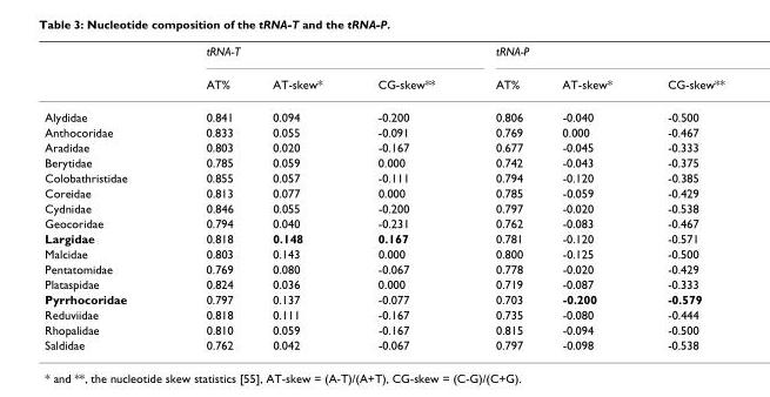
<table><thead><tr><td rowspan="2"></td><td colspan="3">tRNA-T</td><td colspan="3">tRNA-P</td></tr><tr><td>AT%</td><td>AT-skew*</td><td>CG-skew**</td><td>AT%</td><td>AT-skew*</td><td>CG-skew**</td></tr></thead><tbody><tr><td>Alydidae</td><td>0.841</td><td>0.094</td><td>-0.200</td><td>0.806</td><td>-0.040</td><td>-0.500</td></tr><tr><td>Anthocoridae</td><td>0.833</td><td>0.055</td><td>-0.091</td><td>0.769</td><td>0.000</td><td>-0.467</td></tr><tr><td>Aradidae</td><td>0.803</td><td>0.020</td><td>-0.167</td><td>0.677</td><td>-0.045</td><td>-0.333</td></tr><tr><td>Berytidae</td><td>0.785</td><td>0.059</td><td>0.000</td><td>0.742</td><td>-0.043</td><td>-0.375</td></tr><tr><td>Colobathristidae</td><td>0.855</td><td>0.057</td><td>-0.111</td><td>0.794</td><td>-0.120</td><td>-0.385</td></tr><tr><td>Coreidae</td><td>0.813</td><td>0.077</td><td>0.000</td><td>0.785</td><td>-0.059</td><td>-0.429</td></tr><tr><td>Cydnidae</td><td>0.846</td><td>0.055</td><td>-0.200</td><td>0.797</td><td>-0.020</td><td>-0.538</td></tr><tr><td>Geocoridae</td><td>0.794</td><td>0.040</td><td>-0.231</td><td>0.762</td><td>-0.083</td><td>-0.467</td></tr><tr><td>Largidae</td><td>0.818</td><td>0.148</td><td>0.167</td><td>0.781</td><td>-0.120</td><td>-0.571</td></tr><tr><td>Malcidae</td><td>0.803</td><td>0.143</td><td>0.000</td><td>0.800</td><td>-0.125</td><td>-0.500</td></tr><tr><td>Pentatomidae</td><td>0.769</td><td>0.080</td><td>-0.067</td><td>0.778</td><td>-0.020</td><td>-0.429</td></tr><tr><td>Plataspidae</td><td>0.824</td><td>0.036</td><td>0.000</td><td>0.719</td><td>-0.087</td><td>-0.333</td></tr><tr><td>Pyrrhocoridae</td><td>0.797</td><td>0.137</td><td>-0.077</td><td>0.703</td><td>-0.200</td><td>-0.579</td></tr><tr><td>Reduviidae</td><td>0.818</td><td>0.111</td><td>-0.167</td><td>0.735</td><td>-0.080</td><td>-0.444</td></tr><tr><td>Rhopalidae</td><td>0.810</td><td>0.059</td><td>-0.167</td><td>0.815</td><td>-0.094</td><td>-0.500</td></tr><tr><td>Saldidae</td><td>0.762</td><td>0.042</td><td>-0.067</td><td>0.797</td><td>-0.098</td><td>-0.538</td></tr></tbody></table>